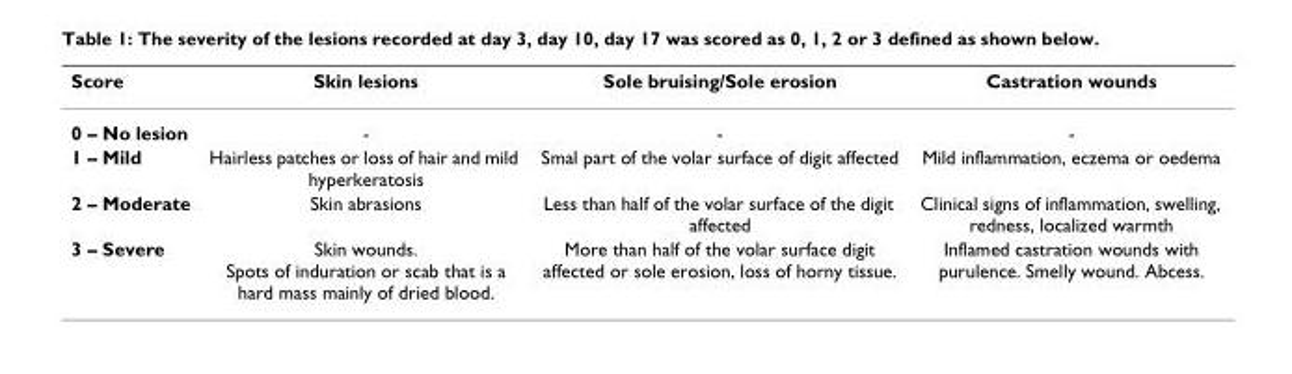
<table><thead><tr><td>Score</td><td>Skin lesions</td><td>Sole bruising/Sole erosion</td><td>Castration wounds</td></tr></thead><tbody><tr><td>0 – No lesion</td><td>-</td><td>-</td><td>-</td></tr><tr><td>1 – Mild</td><td>Hairless patches or loss of hair and mild hyperkeratosis</td><td>Smal part of the volar surface of digit affected</td><td>Mild inflammation, eczema or oedema</td></tr><tr><td>2 – Moderate</td><td>Skin abrasions</td><td>Less than half of the volar surface of the digit affected</td><td>Clinical signs of inflammation, swelling, redness, localized warmth</td></tr><tr><td>3 – Severe</td><td>Skin wounds. Spots of induration or scab that is a hard mass mainly of dried blood.</td><td>More than half of the volar surface digit affected or sole erosion, loss of horny tissue.</td><td>Inflamed castration wounds with purulence. Smelly wound. Abcess.</td></tr></tbody></table>